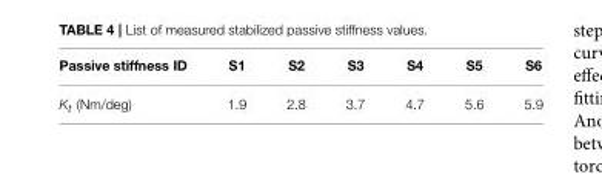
<table><thead><tr><td>Passive stiffness ID</td><td>S1</td><td>S2</td><td>S3</td><td>S4</td><td>S5</td><td>S6</td></tr></thead><tbody><tr><td>K<sub>t</sub> (Nm/deg)</td><td>1.9</td><td>2.8</td><td>3.7</td><td>4.7</td><td>5.6</td><td>5.9</td></tr></tbody></table>